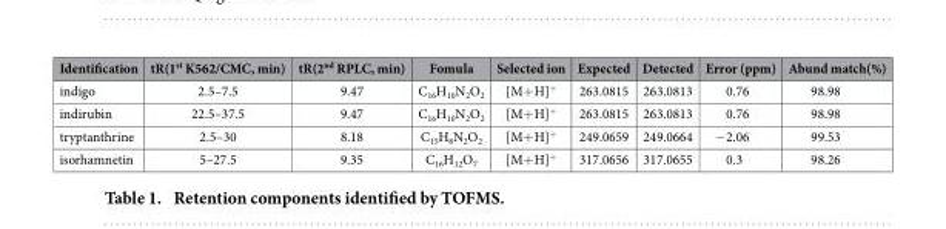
<table><thead><tr><td>Identification</td><td>tR(1<sup>st</sup> K562/CMC, min)</td><td>tR(2<sup>nd</sup> RPLC, min)</td><td>Fomula</td><td>Selected ion</td><td>Expected</td><td>Detected</td><td>Error (ppm)</td><td>Abund match(%)</td></tr></thead><tbody><tr><td>indigo</td><td>2.5–7.5</td><td>9.47</td><td>C<sub>16</sub>H<sub>10</sub>N<sub>2</sub>O<sub>2</sub></td><td>[M+ H]<sup>+</sup></td><td>263.0815</td><td>263.0813</td><td>0.76</td><td>98.98</td></tr><tr><td>indirubin</td><td>22.5–37.5</td><td>9.47</td><td>C<sub>16</sub>H<sub>10</sub>N<sub>2</sub>O<sub>2</sub></td><td>[M+ H]<sup>+</sup></td><td>263.0815</td><td>263.0813</td><td>0.76</td><td>98.98</td></tr><tr><td>tryptanthrine</td><td>2.5–30</td><td>8.18</td><td>C<sub>15</sub>H<sub>8</sub>N<sub>2</sub>O<sub>2</sub></td><td>[M+ H]<sup>+</sup></td><td>249.0659</td><td>249.0664</td><td>− 2.06</td><td>99.53</td></tr><tr><td>isorhamnetin</td><td>5–27.5</td><td>9.35</td><td>C<sub>16</sub>H<sub>12</sub>O<sub>7</sub></td><td>[M+ H]<sup>+</sup></td><td>317.0656</td><td>317.0655</td><td>0.3</td><td>98.26</td></tr></tbody></table>